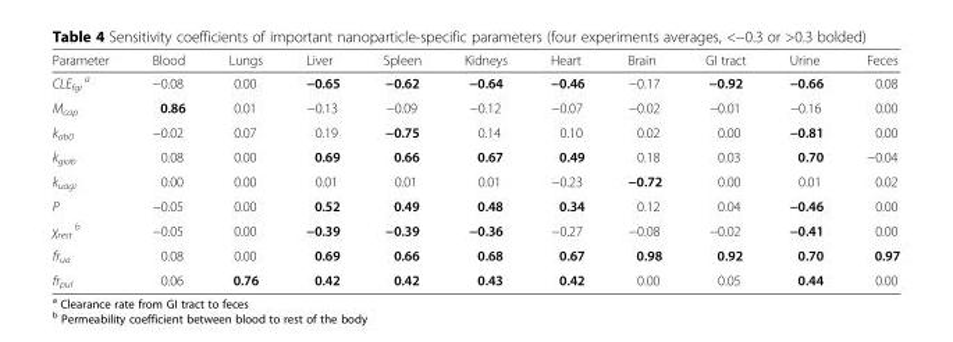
<table><thead><tr><td>Parameter</td><td>Blood</td><td>Lungs</td><td>Liver</td><td>Spleen</td><td>Kidneys</td><td>Heart</td><td>Brain</td><td>GI tract</td><td>Urine</td><td>Feces</td></tr></thead><tbody><tr><td>CLE<sub>fgi</sub> <sup>a</sup></td><td>−0.08</td><td>0.00</td><td>−0.65</td><td>−0.62</td><td>−0.64</td><td>−0.46</td><td>−0.17</td><td>−0.92</td><td>−0.66</td><td>0.08</td></tr><tr><td>M<sub>cap</sub></td><td>0.86</td><td>0.01</td><td>−0.13</td><td>−0.09</td><td>−0.12</td><td>−0.07</td><td>−0.02</td><td>−0.01</td><td>−0.16</td><td>0.00</td></tr><tr><td>k<sub>ab0</sub></td><td>−0.02</td><td>0.07</td><td>0.19</td><td>−0.75</td><td>0.14</td><td>0.10</td><td>0.02</td><td>0.00</td><td>−0.81</td><td>0.00</td></tr><tr><td>k<sub>giab</sub></td><td>0.08</td><td>0.00</td><td>0.69</td><td>0.66</td><td>0.67</td><td>0.49</td><td>0.18</td><td>0.03</td><td>0.70</td><td>−0.04</td></tr><tr><td>k<sub>uagi</sub></td><td>0.00</td><td>0.00</td><td>0.01</td><td>0.01</td><td>0.01</td><td>−0.23</td><td>−0.72</td><td>0.00</td><td>0.01</td><td>0.02</td></tr><tr><td>P</td><td>−0.05</td><td>0.00</td><td>0.52</td><td>0.49</td><td>0.48</td><td>0.34</td><td>0.12</td><td>0.04</td><td>−0.46</td><td>0.00</td></tr><tr><td>χ<sub>rest</sub> <sup>b</sup></td><td>−0.05</td><td>0.00</td><td>−0.39</td><td>−0.39</td><td>−0.36</td><td>−0.27</td><td>−0.08</td><td>−0.02</td><td>−0.41</td><td>0.00</td></tr><tr><td>fr<sub>ua</sub></td><td>0.08</td><td>0.00</td><td>0.69</td><td>0.66</td><td>0.68</td><td>0.67</td><td>0.98</td><td>0.92</td><td>0.70</td><td>0.97</td></tr><tr><td>fr<sub>pul</sub></td><td>0.06</td><td>0.76</td><td>0.42</td><td>0.42</td><td>0.43</td><td>0.42</td><td>0.00</td><td>0.05</td><td>0.44</td><td>0.00</td></tr></tbody></table>